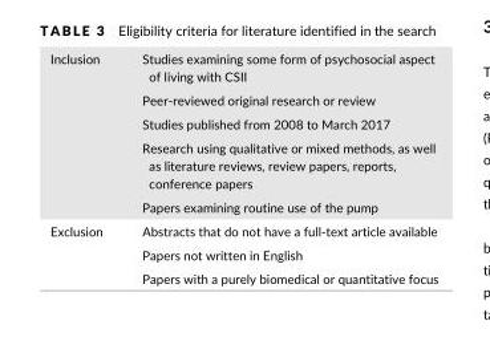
<table><tbody><tr><td rowspan="5">Inclusion</td><td>Studies examining some form of psychosocial aspect of living with CSII</td></tr><tr><td>Peer- reviewed original research or review</td></tr><tr><td>Studies published from 2008 to March 2017</td></tr><tr><td>Research using qualitative or mixed methods, as well as literature reviews, review papers, reports, conference papers</td></tr><tr><td>Papers examining routine use of the pump</td></tr><tr><td rowspan="3">Exclusion</td><td>Abstracts that do not have a full- text article available</td></tr><tr><td>Papers not written in English</td></tr><tr><td>Papers with a purely biomedical or quantitative focus</td></tr></tbody></table>